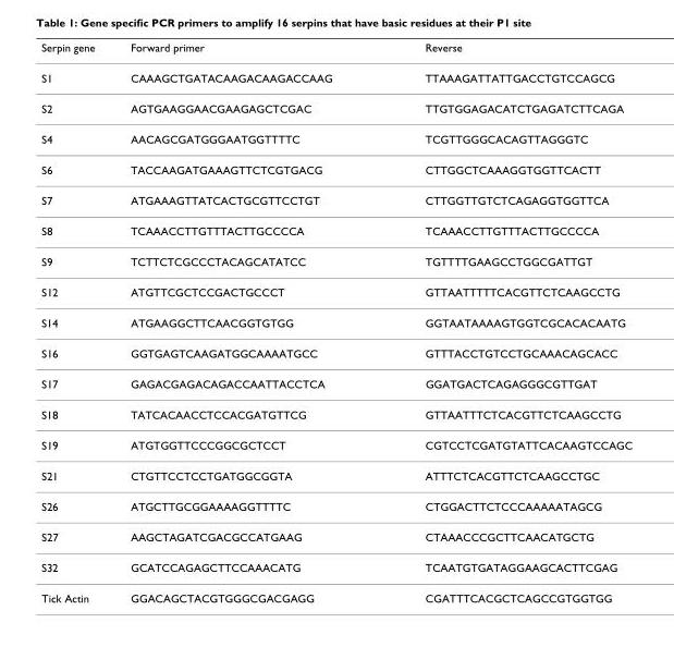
<table><thead><tr><td>Serpin gene</td><td>Forward primer</td><td>Reverse</td></tr></thead><tbody><tr><td>S1</td><td>CAAAGCTGATACAAGACAAGACCAAG</td><td>TTAAAGATTATTGACCTGTCCAGCG</td></tr><tr><td>S2</td><td>AGTGAAGGAACGAAGAGCTCGAC</td><td>TTGTGGAGACATCTGAGATCTTCAGA</td></tr><tr><td>S4</td><td>AACAGCGATGGGAATGGTTTTC</td><td>TCGTTGGGCACAGTTAGGGTC</td></tr><tr><td>S6</td><td>TACCAAGATGAAAGTTCTCGTGACG</td><td>CTTGGCTCAAAGGTGGTTCACTT</td></tr><tr><td>S7</td><td>ATGAAAGTTATCACTGCGTTCCTGT</td><td>CTTGGTTGTCTCAGAGGTGGTTCA</td></tr><tr><td>S8</td><td>TCAAACCTTGTTTACTTGCCCCA</td><td>TCAAACCTTGTTTACTTGCCCCA</td></tr><tr><td>S9</td><td>TCTTCTCGCCCTACAGCATATCC</td><td>TGTTTTGAAGCCTGGCGATTGT</td></tr><tr><td>S12</td><td>ATGTTCGCTCCGACTGCCCT</td><td>GTTAATTTTTCACGTTCTCAAGCCTG</td></tr><tr><td>S14</td><td>ATGAAGGCTTCAACGGTGTGG</td><td>GGTAATAAAAGTGGTCGCACACAATG</td></tr><tr><td>S16</td><td>GGTGAGTCAAGATGGCAAAATGCC</td><td>GTTTACCTGTCCTGCAAACAGCACC</td></tr><tr><td>S17</td><td>GAGACGAGACAGACCAATTACCTCA</td><td>GGATGACTCAGAGGGCGTTGAT</td></tr><tr><td>S18</td><td>TATCACAACCTCCACGATGTTCG</td><td>GTTAATTTCTCACGTTCTCAAGCCTG</td></tr><tr><td>S19</td><td>ATGTGGTTCCCGGCGCTCCT</td><td>CGTCCTCGATGTATTCACAAGTCCAGC</td></tr><tr><td>S21</td><td>CTGTTCCTCCTGATGGCGGTA</td><td>ATTTCTCACGTTCTCAAGCCTGC</td></tr><tr><td>S26</td><td>ATGCTTGCGGAAAAGGTTTTC</td><td>CTGGACTTCTCCCAAAAATAGCG</td></tr><tr><td>S27</td><td>AAGCTAGATCGACGCCATGAAG</td><td>CTAAACCCGCTTCAACATGCTG</td></tr><tr><td>S32</td><td>GCATCCAGAGCTTCCAAACATG</td><td>TCAATGTGATAGGAAGCACTTCGAG</td></tr><tr><td>Tick Actin</td><td>GGACAGCTACGTGGGCGACGAGG</td><td>CGATTTCACGCTCAGCCGTGGTGG</td></tr></tbody></table>